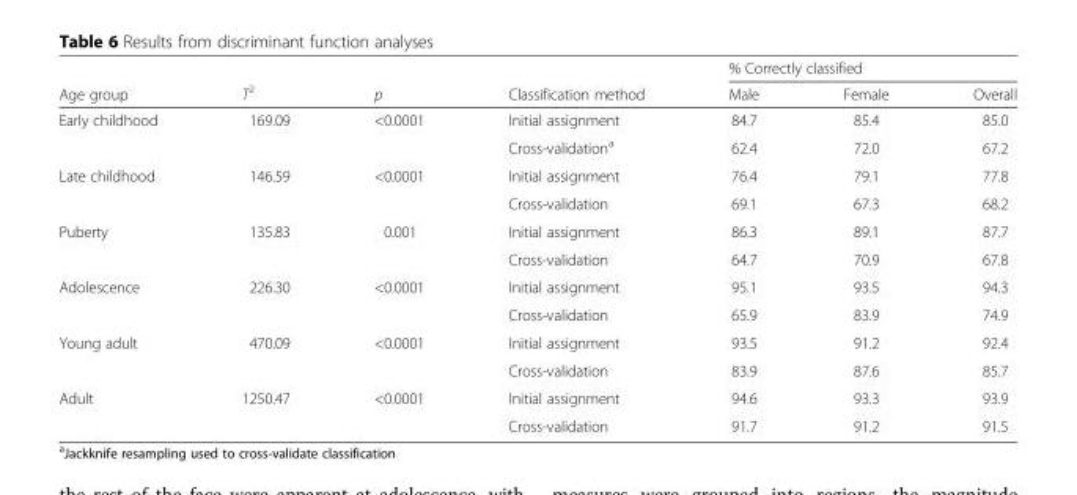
<table><thead><tr><td rowspan="2">Age group</td><td rowspan="2">T<sup>2</sup></td><td rowspan="2">p</td><td rowspan="2">Classification method</td><td colspan="3">% Correctly classified</td></tr><tr><td>Male</td><td>Female</td><td>Overall</td></tr></thead><tbody><tr><td rowspan="2">Early childhood</td><td rowspan="2">169.09</td><td rowspan="2">&lt;0.0001</td><td>Initial assignment</td><td>84.7</td><td>85.4</td><td>85.0</td></tr><tr><td>Cross-validation<sup>a</sup></td><td>62.4</td><td>72.0</td><td>67.2</td></tr><tr><td rowspan="2">Late childhood</td><td rowspan="2">146.59</td><td rowspan="2">&lt;0.0001</td><td>Initial assignment</td><td>76.4</td><td>79.1</td><td>77.8</td></tr><tr><td>Cross-validation</td><td>69.1</td><td>67.3</td><td>68.2</td></tr><tr><td rowspan="2">Puberty</td><td rowspan="2">135.83</td><td rowspan="2">0.001</td><td>Initial assignment</td><td>86.3</td><td>89.1</td><td>87.7</td></tr><tr><td>Cross-validation</td><td>64.7</td><td>70.9</td><td>67.8</td></tr><tr><td rowspan="2">Adolescence</td><td rowspan="2">226.30</td><td rowspan="2">&lt;0.0001</td><td>Initial assignment</td><td>95.1</td><td>93.5</td><td>94.3</td></tr><tr><td>Cross-validation</td><td>65.9</td><td>83.9</td><td>74.9</td></tr><tr><td rowspan="2">Young adult</td><td rowspan="2">470.09</td><td rowspan="2">&lt;0.0001</td><td>Initial assignment</td><td>93.5</td><td>91.2</td><td>92.4</td></tr><tr><td>Cross-validation</td><td>83.9</td><td>87.6</td><td>85.7</td></tr><tr><td rowspan="2">Adult</td><td rowspan="2">1250.47</td><td rowspan="2">&lt;0.0001</td><td>Initial assignment</td><td>94.6</td><td>93.3</td><td>93.9</td></tr><tr><td>Cross-validation</td><td>91.7</td><td>91.2</td><td>91.5</td></tr></tbody></table>